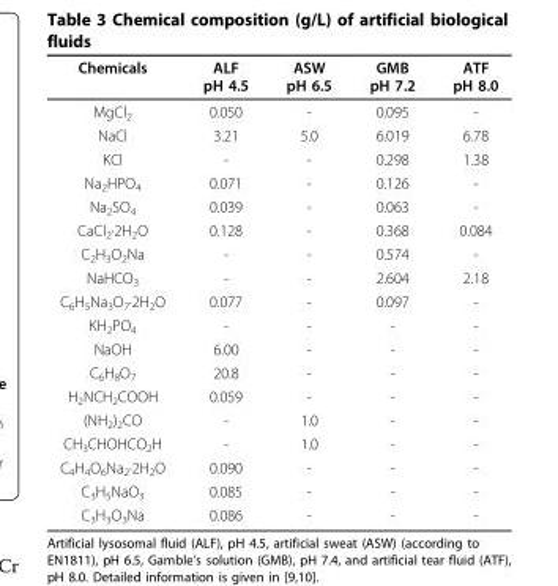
<table><thead><tr><td>Chemicals</td><td>ALF pH 4.5</td><td>ASW pH 6.5</td><td>GMB pH 7.2</td><td>ATF pH 8.0</td></tr></thead><tbody><tr><td>MgCl<sub>2</sub></td><td>0.050</td><td>-</td><td>0.095</td><td>-</td></tr><tr><td>NaCl</td><td>3.21</td><td>5.0</td><td>6.019</td><td>6.78</td></tr><tr><td>KCl</td><td>-</td><td>-</td><td>0.298</td><td>1.38</td></tr><tr><td>Na<sub>2</sub>HPO<sub>4</sub></td><td>0.071</td><td>-</td><td>0.126</td><td>-</td></tr><tr><td>Na<sub>2</sub>SO<sub>4</sub></td><td>0.039</td><td>-</td><td>0.063</td><td>-</td></tr><tr><td>CaCl<sub>2</sub>·2H<sub>2</sub>O</td><td>0.128</td><td>-</td><td>0.368</td><td>0.084</td></tr><tr><td>C<sub>2</sub>H<sub>3</sub>O<sub>2</sub>Na</td><td>-</td><td>-</td><td>0.574</td><td>-</td></tr><tr><td>NaHCO<sub>3</sub></td><td>-</td><td>-</td><td>2.604</td><td>2.18</td></tr><tr><td>C<sub>6</sub>H<sub>5</sub>Na<sub>3</sub>O<sub>7</sub>·2H<sub>2</sub>O</td><td>0.077</td><td>-</td><td>0.097</td><td>-</td></tr><tr><td>KH<sub>2</sub>PO<sub>4</sub></td><td>-</td><td>-</td><td>-</td><td>-</td></tr><tr><td>NaOH</td><td>6.00</td><td>-</td><td>-</td><td>-</td></tr><tr><td>C<sub>6</sub>H<sub>8</sub>O<sub>7</sub></td><td>20.8</td><td>-</td><td>-</td><td>-</td></tr><tr><td>H<sub>2</sub>NCH<sub>2</sub>COOH</td><td>0.059</td><td>-</td><td>-</td><td>-</td></tr><tr><td>(NH<sub>2</sub>)<sub>2</sub>CO</td><td>-</td><td>1.0</td><td>-</td><td>-</td></tr><tr><td>CH<sub>3</sub>CHOHCO<sub>2</sub>H</td><td>-</td><td>1.0</td><td>-</td><td>-</td></tr><tr><td>C<sub>4</sub>H<sub>4</sub>O<sub>6</sub>Na<sub>2</sub>·2H<sub>2</sub>O</td><td>0.090</td><td>-</td><td>-</td><td>-</td></tr><tr><td>C<sub>3</sub>H<sub>5</sub>NaO<sub>3</sub></td><td>0.085</td><td>-</td><td>-</td><td>-</td></tr><tr><td>C<sub>3</sub>H<sub>3</sub>O<sub>3</sub>Na</td><td>0.086</td><td>-</td><td>-</td><td>-</td></tr></tbody></table>